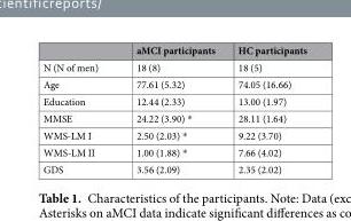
<table><thead><tr><td></td><td>aMCI participants</td><td>HC participants</td></tr></thead><tbody><tr><td>N (N of men)</td><td>18 (8)</td><td>18 (5)</td></tr><tr><td>Age</td><td>77.61 (5.32)</td><td>74.05 (16.66)</td></tr><tr><td>Education</td><td>12.44 (2.33)</td><td>13.00 (1.97)</td></tr><tr><td>MMSE</td><td>24.22 (3.90) *</td><td>28.11 (1.64)</td></tr><tr><td>WMS-LM I</td><td>2.50 (2.03) *</td><td>9.22 (3.70)</td></tr><tr><td>WMS-LM II</td><td>1.00 (1.88) *</td><td>7.66 (4.02)</td></tr><tr><td>GDS</td><td>3.56 (2.09)</td><td>2.35 (2.02)</td></tr></tbody></table>